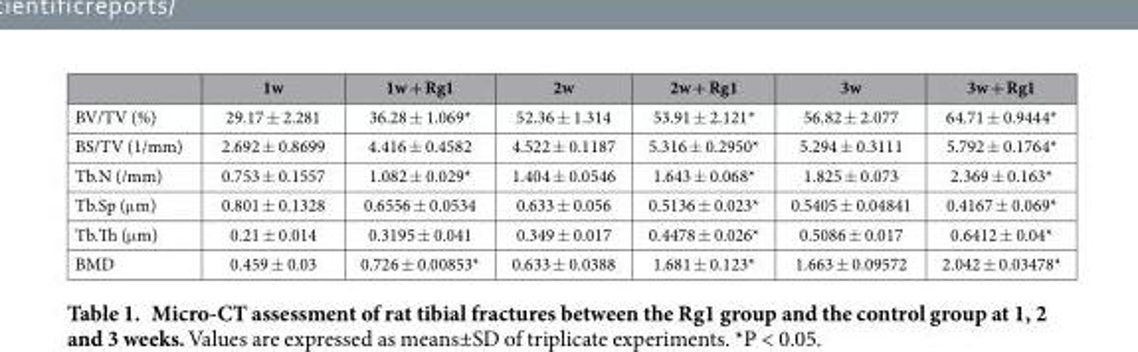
<table><thead><tr><td></td><td>1w</td><td>1w + Rg1</td><td>2w</td><td>2w + Rg1</td><td>3w</td><td>3w + Rg1</td></tr></thead><tbody><tr><td>BV/TV (%)</td><td>29.17 ± 2.281</td><td>36.28 ± 1.069*</td><td>52.36 ± 1.314</td><td>53.91 ± 2.121*</td><td>56.82 ± 2.077</td><td>64.71 ± 0.9444*</td></tr><tr><td>BS/TV (1/mm)</td><td>2.692 ± 0.8699</td><td>4.416 ± 0.4582</td><td>4.522 ± 0.1187</td><td>5.316 ± 0.2950*</td><td>5.294 ± 0.3111</td><td>5.792 ± 0.1764*</td></tr><tr><td>Tb.N (/mm)</td><td>0.753 ± 0.1557</td><td>1.082 ± 0.029*</td><td>1.404 ± 0.0546</td><td>1.643 ± 0.068*</td><td>1.825 ± 0.073</td><td>2.369 ± 0.163*</td></tr><tr><td>Tb.Sp (μ m)</td><td>0.801 ± 0.1328</td><td>0.6556 ± 0.0534</td><td>0.633 ± 0.056</td><td>0.5136 ± 0.023*</td><td>0.5405 ± 0.04841</td><td>0.4167 ± 0.069*</td></tr><tr><td>Tb.Th (μ m)</td><td>0.21 ± 0.014</td><td>0.3195 ± 0.041</td><td>0.349 ± 0.017</td><td>0.4478 ± 0.026*</td><td>0.5086 ± 0.017</td><td>0.6412 ± 0.04*</td></tr><tr><td>BMD</td><td>0.459 ± 0.03</td><td>0.726 ± 0.00853*</td><td>0.633 ± 0.0388</td><td>1.681 ± 0.123*</td><td>1.663 ± 0.09572</td><td>2.042 ± 0.03478*</td></tr></tbody></table>